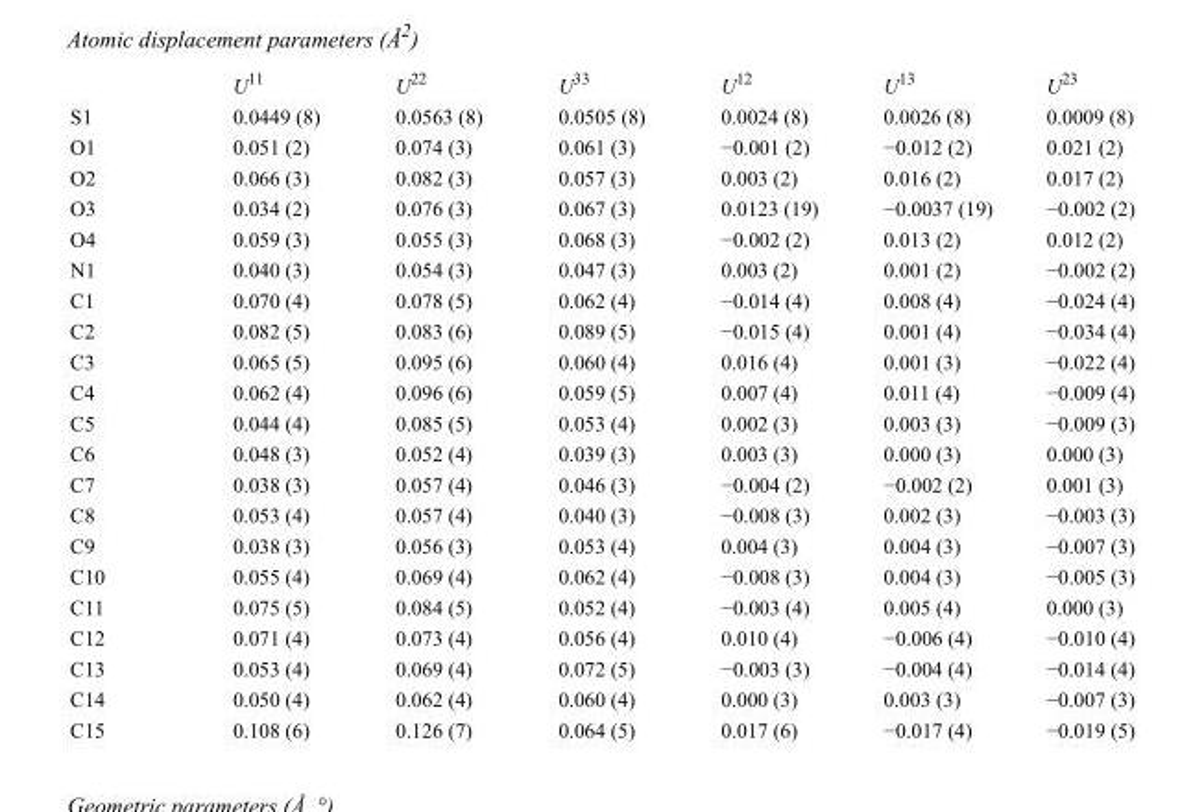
<table><thead><tr><td></td><td>U<sup>11</sup></td><td>U<sup>22</sup></td><td>U<sup>33</sup></td><td>U<sup>12</sup></td><td>U<sup>13</sup></td><td>U<sup>23</sup></td></tr></thead><tbody><tr><td>S1</td><td>0.0449 (8)</td><td>0.0563 (8)</td><td>0.0505 (8)</td><td>0.0024 (8)</td><td>0.0026 (8)</td><td>0.0009 (8)</td></tr><tr><td>O1</td><td>0.051 (2)</td><td>0.074 (3)</td><td>0.061 (3)</td><td>−0.001 (2)</td><td>−0.012 (2)</td><td>0.021 (2)</td></tr><tr><td>O2</td><td>0.066 (3)</td><td>0.082 (3)</td><td>0.057 (3)</td><td>0.003 (2)</td><td>0.016 (2)</td><td>0.017 (2)</td></tr><tr><td>O3</td><td>0.034 (2)</td><td>0.076 (3)</td><td>0.067 (3)</td><td>0.0123 (19)</td><td>−0.0037 (19)</td><td>−0.002 (2)</td></tr><tr><td>O4</td><td>0.059 (3)</td><td>0.055 (3)</td><td>0.068 (3)</td><td>−0.002 (2)</td><td>0.013 (2)</td><td>0.012 (2)</td></tr><tr><td>N1</td><td>0.040 (3)</td><td>0.054 (3)</td><td>0.047 (3)</td><td>0.003 (2)</td><td>0.001 (2)</td><td>−0.002 (2)</td></tr><tr><td>C1</td><td>0.070 (4)</td><td>0.078 (5)</td><td>0.062 (4)</td><td>−0.014 (4)</td><td>0.008 (4)</td><td>−0.024 (4)</td></tr><tr><td>C2</td><td>0.082 (5)</td><td>0.083 (6)</td><td>0.089 (5)</td><td>−0.015 (4)</td><td>0.001 (4)</td><td>−0.034 (4)</td></tr><tr><td>C3</td><td>0.065 (5)</td><td>0.095 (6)</td><td>0.060 (4)</td><td>0.016 (4)</td><td>0.001 (3)</td><td>−0.022 (4)</td></tr><tr><td>C4</td><td>0.062 (4)</td><td>0.096 (6)</td><td>0.059 (5)</td><td>0.007 (4)</td><td>0.011 (4)</td><td>−0.009 (4)</td></tr><tr><td>C5</td><td>0.044 (4)</td><td>0.085 (5)</td><td>0.053 (4)</td><td>0.002 (3)</td><td>0.003 (3)</td><td>−0.009 (3)</td></tr><tr><td>C6</td><td>0.048 (3)</td><td>0.052 (4)</td><td>0.039 (3)</td><td>0.003 (3)</td><td>0.000 (3)</td><td>0.000 (3)</td></tr><tr><td>C7</td><td>0.038 (3)</td><td>0.057 (4)</td><td>0.046 (3)</td><td>−0.004 (2)</td><td>−0.002 (2)</td><td>0.001 (3)</td></tr><tr><td>C8</td><td>0.053 (4)</td><td>0.057 (4)</td><td>0.040 (3)</td><td>−0.008 (3)</td><td>0.002 (3)</td><td>−0.003 (3)</td></tr><tr><td>C9</td><td>0.038 (3)</td><td>0.056 (3)</td><td>0.053 (4)</td><td>0.004 (3)</td><td>0.004 (3)</td><td>−0.007 (3)</td></tr><tr><td>C10</td><td>0.055 (4)</td><td>0.069 (4)</td><td>0.062 (4)</td><td>−0.008 (3)</td><td>0.004 (3)</td><td>−0.005 (3)</td></tr><tr><td>C11</td><td>0.075 (5)</td><td>0.084 (5)</td><td>0.052 (4)</td><td>−0.003 (4)</td><td>0.005 (4)</td><td>0.000 (3)</td></tr><tr><td>C12</td><td>0.071 (4)</td><td>0.073 (4)</td><td>0.056 (4)</td><td>0.010 (4)</td><td>−0.006 (4)</td><td>−0.010 (4)</td></tr><tr><td>C13</td><td>0.053 (4)</td><td>0.069 (4)</td><td>0.072 (5)</td><td>−0.003 (3)</td><td>−0.004 (4)</td><td>−0.014 (4)</td></tr><tr><td>C14</td><td>0.050 (4)</td><td>0.062 (4)</td><td>0.060 (4)</td><td>0.000 (3)</td><td>0.003 (3)</td><td>−0.007 (3)</td></tr><tr><td>C15</td><td>0.108 (6)</td><td>0.126 (7)</td><td>0.064 (5)</td><td>0.017 (6)</td><td>−0.017 (4)</td><td>−0.019 (5)</td></tr></tbody></table>